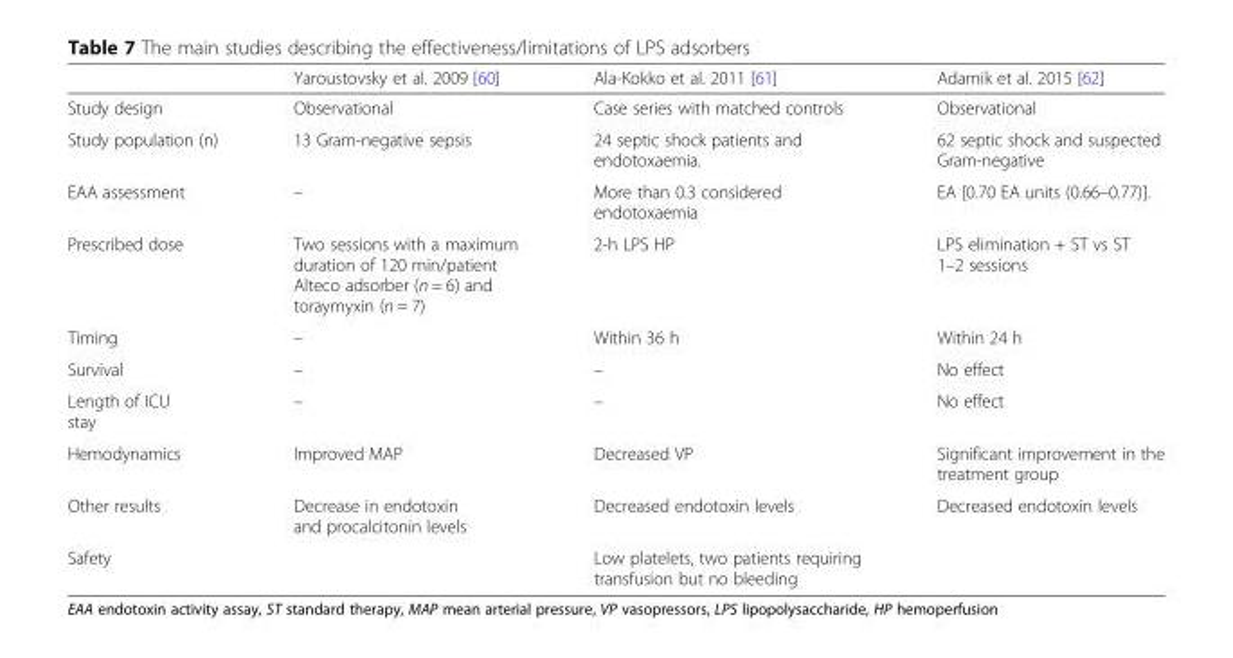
<table><thead><tr><td></td><td>Yaroustovsky et al. 2009 [60]</td><td>Ala-Kokko et al. 2011 [61]</td><td>Adamik et al. 2015 [62]</td></tr></thead><tbody><tr><td>Study design</td><td>Observational</td><td>Case series with matched controls</td><td>Observational</td></tr><tr><td>Study population (n)</td><td>13 Gram-negative sepsis</td><td>24 septic shock patients and endotoxaemia.</td><td>62 septic shock and suspected Gram-negative</td></tr><tr><td>EAA assessment</td><td>–</td><td>More than 0.3 considered endotoxaemia</td><td>EA [0.70 EA units (0.66–0.77)].</td></tr><tr><td>Prescribed dose</td><td>Two sessions with a maximum duration of 120 min/patient Alteco adsorber (n = 6) and toraymyxin (n = 7)</td><td>2-h LPS HP</td><td>LPS elimination + ST vs ST 1–2 sessions</td></tr><tr><td>Timing</td><td>–</td><td>Within 36 h</td><td>Within 24 h</td></tr><tr><td>Survival</td><td>–</td><td>–</td><td>No effect</td></tr><tr><td>Length of ICU stay</td><td>–</td><td>–</td><td>No effect</td></tr><tr><td>Hemodynamics</td><td>Improved MAP</td><td>Decreased VP</td><td>Significant improvement in the treatment group</td></tr><tr><td>Other results</td><td>Decrease in endotoxin and procalcitonin levels</td><td>Decreased endotoxin levels</td><td>Decreased endotoxin levels</td></tr><tr><td>Safety</td><td></td><td>Low platelets, two patients requiring transfusion but no bleeding</td><td></td></tr></tbody></table>